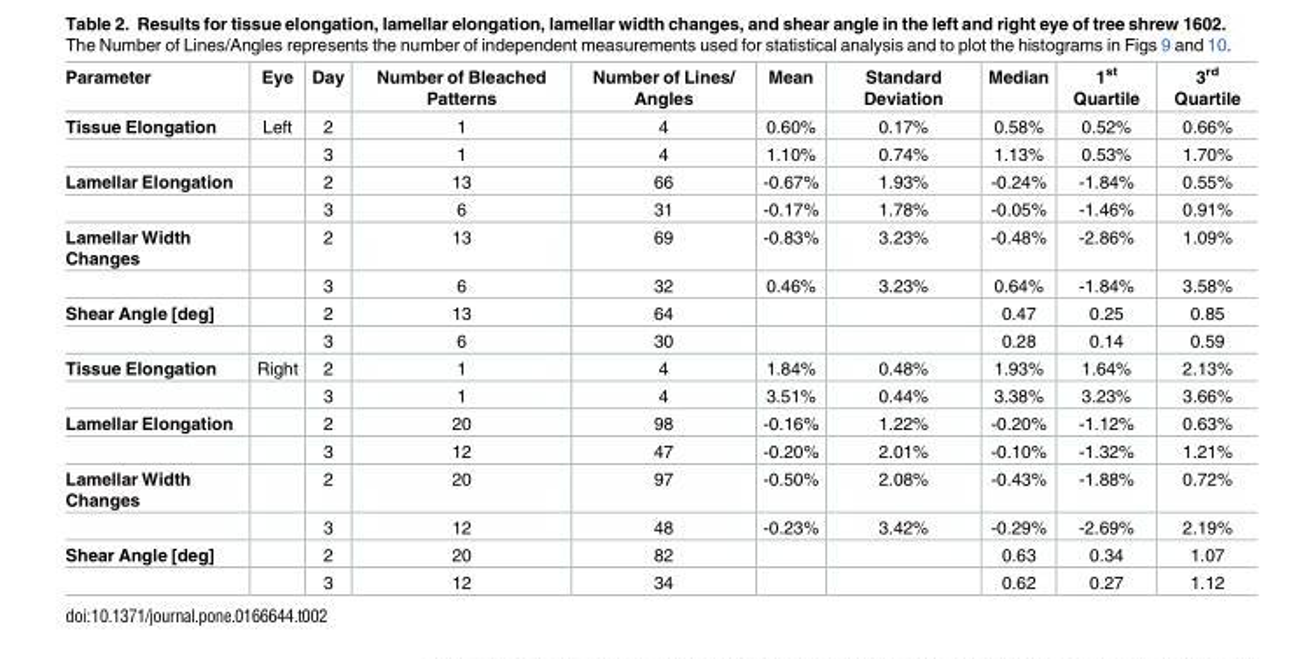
<table><thead><tr><td>Parameter</td><td>Eye</td><td>Day</td><td>Number of Bleached Patterns</td><td>Number of Lines/ Angles</td><td>Mean</td><td>Standard Deviation</td><td>Median</td><td>1<sup>st</sup> Quartile</td><td>3<sup>rd</sup> Quartile</td></tr></thead><tbody><tr><td rowspan="2">Tissue Elongation</td><td>Left</td><td>2</td><td>1</td><td>4</td><td>0.60%</td><td>0.17%</td><td>0.58%</td><td>0.52%</td><td>0.66%</td></tr><tr><td></td><td>3</td><td>1</td><td>4</td><td>1.10%</td><td>0.74%</td><td>1.13%</td><td>0.53%</td><td>1.70%</td></tr><tr><td rowspan="2">Lamellar Elongation</td><td></td><td>2</td><td>13</td><td>66</td><td>-0.67%</td><td>1.93%</td><td>-0.24%</td><td>-1.84%</td><td>0.55%</td></tr><tr><td></td><td>3</td><td>6</td><td>31</td><td>-0.17%</td><td>1.78%</td><td>-0.05%</td><td>-1.46%</td><td>0.91%</td></tr><tr><td rowspan="2">Lamellar Width Changes</td><td></td><td>2</td><td>13</td><td>69</td><td>-0.83%</td><td>3.23%</td><td>-0.48%</td><td>-2.86%</td><td>1.09%</td></tr><tr><td></td><td>3</td><td>6</td><td>32</td><td>0.46%</td><td>3.23%</td><td>0.64%</td><td>-1.84%</td><td>3.58%</td></tr><tr><td rowspan="2">Shear Angle [deg]</td><td></td><td>2</td><td>13</td><td>64</td><td></td><td></td><td>0.47</td><td>0.25</td><td>0.85</td></tr><tr><td></td><td>3</td><td>6</td><td>30</td><td></td><td></td><td>0.28</td><td>0.14</td><td>0.59</td></tr><tr><td rowspan="2">Tissue Elongation</td><td>Right</td><td>2</td><td>1</td><td>4</td><td>1.84%</td><td>0.48%</td><td>1.93%</td><td>1.64%</td><td>2.13%</td></tr><tr><td></td><td>3</td><td>1</td><td>4</td><td>3.51%</td><td>0.44%</td><td>3.38%</td><td>3.23%</td><td>3.66%</td></tr><tr><td rowspan="2">Lamellar Elongation</td><td></td><td>2</td><td>20</td><td>98</td><td>-0.16%</td><td>1.22%</td><td>-0.20%</td><td>-1.12%</td><td>0.63%</td></tr><tr><td></td><td>3</td><td>12</td><td>47</td><td>-0.20%</td><td>2.01%</td><td>-0.10%</td><td>-1.32%</td><td>1.21%</td></tr><tr><td rowspan="2">Lamellar Width Changes</td><td></td><td>2</td><td>20</td><td>97</td><td>-0.50%</td><td>2.08%</td><td>-0.43%</td><td>-1.88%</td><td>0.72%</td></tr><tr><td></td><td>3</td><td>12</td><td>48</td><td>-0.23%</td><td>3.42%</td><td>-0.29%</td><td>-2.69%</td><td>2.19%</td></tr><tr><td rowspan="2">Shear Angle [deg]</td><td></td><td>2</td><td>20</td><td>82</td><td></td><td></td><td>0.63</td><td>0.34</td><td>1.07</td></tr><tr><td></td><td>3</td><td>12</td><td>34</td><td></td><td></td><td>0.62</td><td>0.27</td><td>1.12</td></tr></tbody></table>